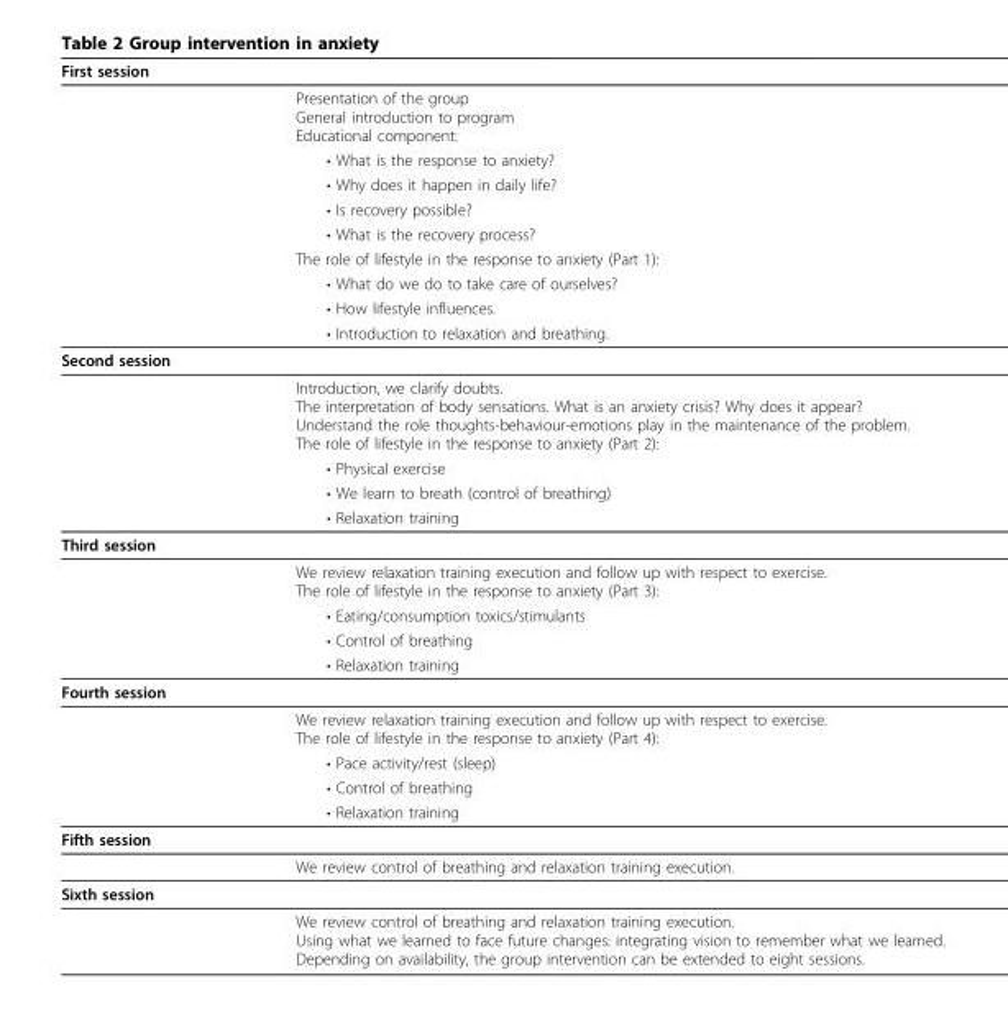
<table><thead><tr><td>First session</td><td></td></tr></thead><tbody><tr><td></td><td>Presentation of the group General introduction to program Educational component:</td></tr><tr><td></td><td>• What is the response to anxiety?</td></tr><tr><td></td><td>• Why does it happen in daily life?</td></tr><tr><td></td><td>• Is recovery possible?</td></tr><tr><td></td><td>• What is the recovery process?</td></tr><tr><td></td><td>The role of lifestyle in the response to anxiety (Part 1):</td></tr><tr><td></td><td>• What do we do to take care of ourselves?</td></tr><tr><td></td><td>• How lifestyle influences.</td></tr><tr><td></td><td>• Introduction to relaxation and breathing.</td></tr><tr><td colspan="2">Second session</td></tr><tr><td></td><td>Introduction, we clarify doubts. The interpretation of body sensations. What is an anxiety crisis? Why does it appear? Understand the role thoughts-behaviour-emotions play in the maintenance of the problem. The role of lifestyle in the response to anxiety (Part 2):</td></tr><tr><td></td><td>• Physical exercise</td></tr><tr><td></td><td>• We learn to breath (control of breathing)</td></tr><tr><td></td><td>• Relaxation training</td></tr><tr><td colspan="2">Third session</td></tr><tr><td></td><td>We review relaxation training execution and follow up with respect to exercise. The role of lifestyle in the response to anxiety (Part 3):</td></tr><tr><td></td><td>• Eating/consumption toxics/stimulants</td></tr><tr><td></td><td>• Control of breathing</td></tr><tr><td></td><td>• Relaxation training</td></tr><tr><td colspan="2">Fourth session</td></tr><tr><td></td><td>We review relaxation training execution and follow up with respect to exercise. The role of lifestyle in the response to anxiety (Part 4):</td></tr><tr><td></td><td>• Pace activity/rest (sleep)</td></tr><tr><td></td><td>• Control of breathing</td></tr><tr><td></td><td>• Relaxation training</td></tr><tr><td colspan="2">Fifth session</td></tr><tr><td></td><td>We review control of breathing and relaxation training execution.</td></tr><tr><td colspan="2">Sixth session</td></tr><tr><td></td><td>We review control of breathing and relaxation training execution. Using what we learned to face future changes: integrating vision to remember what we learned. Depending on availability, the group intervention can be extended to eight sessions.</td></tr></tbody></table>